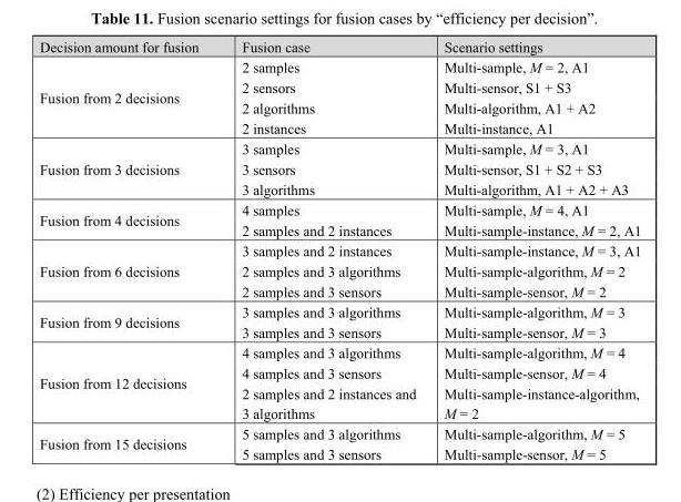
<table><thead><tr><td>Decision amount for fusion</td><td>Fusion case</td><td>Scenario settings</td></tr></thead><tbody><tr><td rowspan="4">Fusion from 2 decisions</td><td>2 samples</td><td>Multi-sample, M = 2, A1</td></tr><tr><td>2 sensors</td><td>Multi-sensor, S1 + S3</td></tr><tr><td>2 algorithms</td><td>Multi-algorithm, A1 + A2</td></tr><tr><td>2 instances</td><td>Multi-instance, A1</td></tr><tr><td rowspan="3">Fusion from 3 decisions</td><td>3 samples</td><td>Multi-sample, M = 3, A1</td></tr><tr><td>3 sensors</td><td>Multi-sensor, S1 + S2 + S3</td></tr><tr><td>3 algorithms</td><td>Multi-algorithm, A1 + A2 + A3</td></tr><tr><td rowspan="2">Fusion from 4 decisions</td><td>4 samples</td><td>Multi-sample, M = 4, A1</td></tr><tr><td>2 samples and 2 instances</td><td>Multi-sample-instance, M = 2, A1</td></tr><tr><td rowspan="3">Fusion from 6 decisions</td><td>3 samples and 2 instances</td><td>Multi-sample-instance, M = 3, A1</td></tr><tr><td>2 samples and 3 algorithms</td><td>Multi-sample-algorithm, M = 2</td></tr><tr><td>2 samples and 3 sensors</td><td>Multi-sample-sensor, M = 2</td></tr><tr><td rowspan="2">Fusion from 9 decisions</td><td>3 samples and 3 algorithms</td><td>Multi-sample-algorithm, M = 3</td></tr><tr><td>3 samples and 3 sensors</td><td>Multi-sample-sensor, M = 3</td></tr><tr><td rowspan="3">Fusion from 12 decisions</td><td>4 samples and 3 algorithms</td><td>Multi-sample-algorithm, M = 4</td></tr><tr><td>4 samples and 3 sensors</td><td>Multi-sample-sensor, M = 4</td></tr><tr><td>2 samples and 2 instances and 3 algorithms</td><td>Multi-sample-instance-algorithm, M = 2</td></tr><tr><td rowspan="2">Fusion from 15 decisions</td><td>5 samples and 3 algorithms</td><td>Multi-sample-algorithm, M = 5</td></tr><tr><td>5 samples and 3 sensors</td><td>Multi-sample-sensor, M = 5</td></tr></tbody></table>